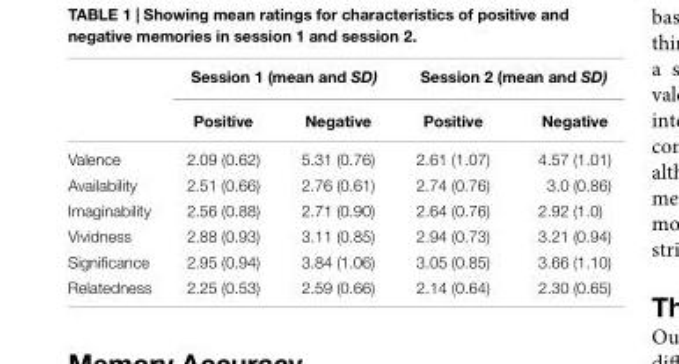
<table><thead><tr><td rowspan="2"></td><td colspan="2">Session 1 (mean and SD)</td><td colspan="2">Session 2 (mean and SD)</td></tr><tr><td>Positive</td><td>Negative</td><td>Positive</td><td>Negative</td></tr></thead><tbody><tr><td>Valence</td><td>2.09 (0.62)</td><td>5.31 (0.76)</td><td>2.61 (1.07)</td><td>4.57 (1.01)</td></tr><tr><td>Availability</td><td>2.51 (0.66)</td><td>2.76 (0.61)</td><td>2.74 (0.76)</td><td>3.0 (0.86)</td></tr><tr><td>Imaginability</td><td>2.56 (0.88)</td><td>2.71 (0.90)</td><td>2.64 (0.76)</td><td>2.92 (1.0)</td></tr><tr><td>Vividness</td><td>2.88 (0.93)</td><td>3.11 (0.85)</td><td>2.94 (0.73)</td><td>3.21 (0.94)</td></tr><tr><td>Significance</td><td>2.95 (0.94)</td><td>3.84 (1.06)</td><td>3.05 (0.85)</td><td>3.66 (1.10)</td></tr><tr><td>Relatedness</td><td>2.25 (0.53)</td><td>2.59 (0.66)</td><td>2.14 (0.64)</td><td>2.30 (0.65)</td></tr></tbody></table>